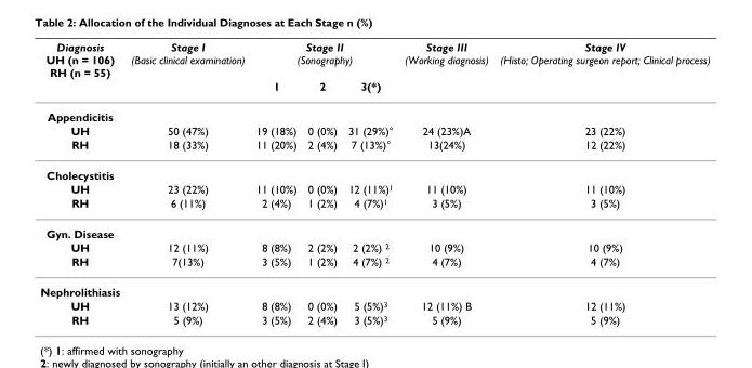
<table><thead><tr><td rowspan="2">Diagnosis UH (n = 106) RH (n = 55)</td><td rowspan="2">Stage I (Basic clinical examination)</td><td colspan="3">Stage II (Sonography)</td><td rowspan="2">Stage III (Working diagnosis)</td><td rowspan="2">Stage IV (Histo; Operating surgeon report; Clinical process)</td></tr><tr><td>1</td><td>2</td><td>3(*)</td></tr></thead><tbody><tr><td colspan="7">Appendicitis</td></tr><tr><td>UH</td><td>50 (47%)</td><td>19 (18%)</td><td>0 (0%)</td><td>31 (29%)°</td><td>24 (23%)A</td><td>23 (22%)</td></tr><tr><td>RH</td><td>18 (33%)</td><td>11 (20%)</td><td>2 (4%)</td><td>7 (13%)°</td><td>13(24%)</td><td>12 (22%)</td></tr><tr><td colspan="7">Cholecystitis</td></tr><tr><td>UH</td><td>23 (22%)</td><td>11 (10%)</td><td>0 (0%)</td><td>12 (11%)<sup>1</sup></td><td>11 (10%)</td><td>11 (10%)</td></tr><tr><td>RH</td><td>6 (11%)</td><td>2 (4%)</td><td>1 (2%)</td><td>4 (7%)<sup>1</sup></td><td>3 (5%)</td><td>3 (5%)</td></tr><tr><td colspan="7">Gyn. Disease</td></tr><tr><td>UH</td><td>12 (11%)</td><td>8 (8%)</td><td>2 (2%)</td><td>2 (2%) <sup>2</sup></td><td>10 (9%)</td><td>10 (9%)</td></tr><tr><td>RH</td><td>7(13%)</td><td>3 (5%)</td><td>1 (2%)</td><td>4 (7%) <sup>2</sup></td><td>4 (7%)</td><td>4 (7%)</td></tr><tr><td colspan="7">Nephrolithiasis</td></tr><tr><td>UH</td><td>13 (12%)</td><td>8 (8%)</td><td>0 (0%)</td><td>5 (5%)<sup>3</sup></td><td>12 (11%) B</td><td>12 (11%)</td></tr><tr><td>RH</td><td>5 (9%)</td><td>3 (5%)</td><td>2 (4%)</td><td>3 (5%)<sup>3</sup></td><td>5 (9%)</td><td>5 (9%)</td></tr></tbody></table>